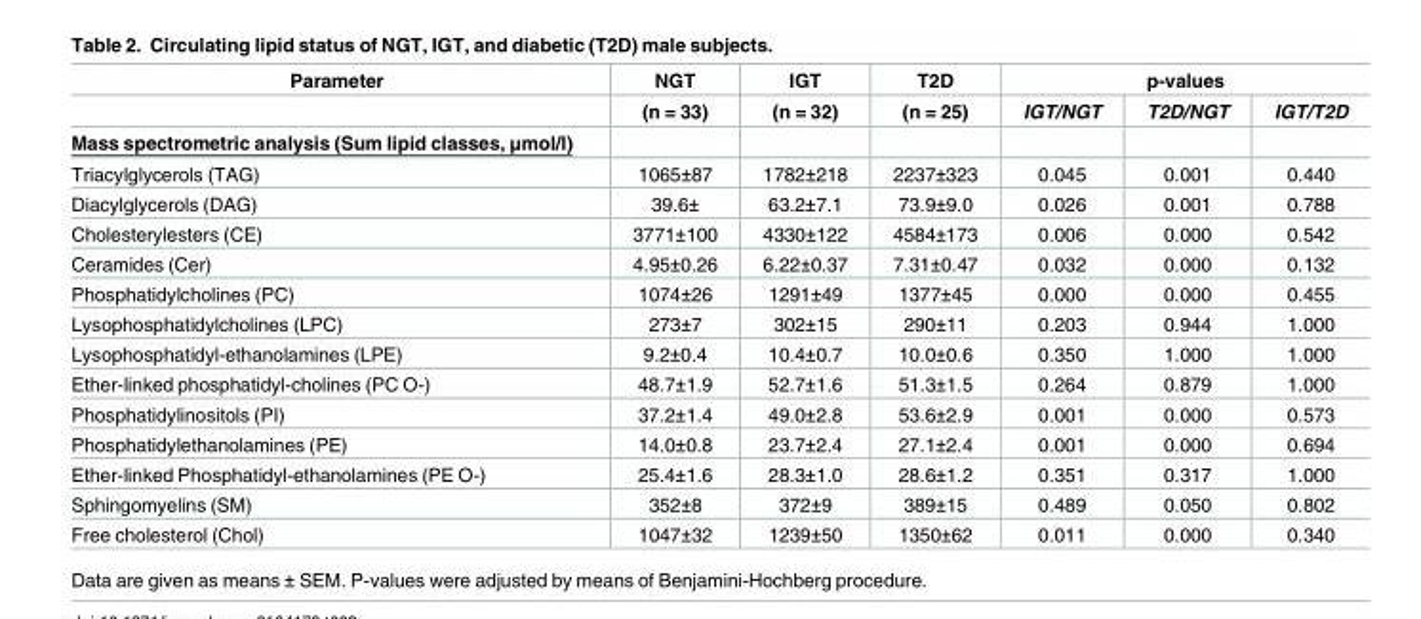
<table><thead><tr><td rowspan="2">Parameter</td><td rowspan="2">NGT (n = 33)</td><td rowspan="2">IGT (n = 32)</td><td rowspan="2">T2D (n = 25)</td><td colspan="3">p-values</td></tr><tr><td>IGT/NGT</td><td>T2D/NGT</td><td>IGT/T2D</td></tr></thead><tbody><tr><td colspan="7">Mass spectrometric analysis (Sum lipid classes, μmol/l)</td></tr><tr><td>Triacylglycerols (TAG)</td><td>1065±87</td><td>1782±218</td><td>2237±323</td><td>0.045</td><td>0.001</td><td>0.440</td></tr><tr><td>Diacylglycerols (DAG)</td><td>39.6±</td><td>63.2±7.1</td><td>73.9±9.0</td><td>0.026</td><td>0.001</td><td>0.788</td></tr><tr><td>Cholesterylesters (CE)</td><td>3771±100</td><td>4330±122</td><td>4584±173</td><td>0.006</td><td>0.000</td><td>0.542</td></tr><tr><td>Ceramides (Cer)</td><td>4.95±0.26</td><td>6.22±0.37</td><td>7.31±0.47</td><td>0.032</td><td>0.000</td><td>0.132</td></tr><tr><td>Phosphatidylcholines (PC)</td><td>1074±26</td><td>1291±49</td><td>1377±45</td><td>0.000</td><td>0.000</td><td>0.455</td></tr><tr><td>Lysophosphatidylcholines (LPC)</td><td>273±7</td><td>302±15</td><td>290±11</td><td>0.203</td><td>0.944</td><td>1.000</td></tr><tr><td>Lysophosphatidyl-ethanolamines (LPE)</td><td>9.2±0.4</td><td>10.4±0.7</td><td>10.0±0.6</td><td>0.350</td><td>1.000</td><td>1.000</td></tr><tr><td>Ether-linked phosphatidyl-cholines (PC O-)</td><td>48.7±1.9</td><td>52.7±1.6</td><td>51.3±1.5</td><td>0.264</td><td>0.879</td><td>1.000</td></tr><tr><td>Phosphatidylinositols (PI)</td><td>37.2±1.4</td><td>49.0±2.8</td><td>53.6±2.9</td><td>0.001</td><td>0.000</td><td>0.573</td></tr><tr><td>Phosphatidylethanolamines (PE)</td><td>14.0±0.8</td><td>23.7±2.4</td><td>27.1±2.4</td><td>0.001</td><td>0.000</td><td>0.694</td></tr><tr><td>Ether-linked Phosphatidyl-ethanolamines (PE O-)</td><td>25.4±1.6</td><td>28.3±1.0</td><td>28.6±1.2</td><td>0.351</td><td>0.317</td><td>1.000</td></tr><tr><td>Sphingomyelins (SM)</td><td>352±8</td><td>372±9</td><td>389±15</td><td>0.489</td><td>0.050</td><td>0.802</td></tr><tr><td>Free cholesterol (Chol)</td><td>1047±32</td><td>1239±50</td><td>1350±62</td><td>0.011</td><td>0.000</td><td>0.340</td></tr></tbody></table>